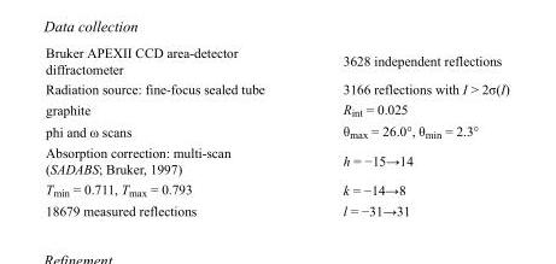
<table><tbody><tr><td>Bruker APEXII CCD area-detector diffractometer</td><td>3628 independent reflections</td></tr><tr><td>Radiation source: fine-focus sealed tube</td><td>3166 reflections with I &gt; 2σ(I)</td></tr><tr><td>graphite</td><td>R<sub>int</sub> = 0.025</td></tr><tr><td>phi and ω scans</td><td>θ<sub>max</sub> = 26.0°, θ<sub>min</sub> = 2.3°</td></tr><tr><td>Absorption correction: multi-scan (SADABS; Bruker, 1997)</td><td>h = −15→14</td></tr><tr><td>T<sub>min</sub> = 0.711, T<sub>max</sub> = 0.793</td><td>k = −14→8</td></tr><tr><td>18679 measured reflections</td><td>l = −31→31</td></tr></tbody></table>